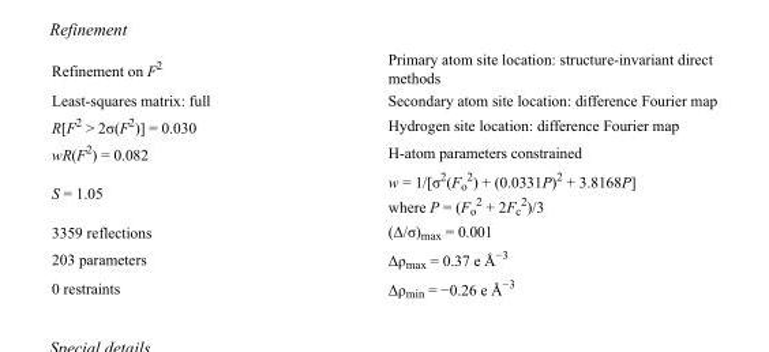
<table><tbody><tr><td>Refinement on F<sup>2</sup></td><td>Primary atom site location: structure-invariant direct methods</td></tr><tr><td>Least-squares matrix: full</td><td>Secondary atom site location: difference Fourier map</td></tr><tr><td>R[F<sup>2</sup> &gt; 2σ(F<sup>2</sup>)] = 0.030</td><td>Hydrogen site location: difference Fourier map</td></tr><tr><td>wR(F<sup>2</sup>) = 0.082</td><td>H-atom parameters constrained</td></tr><tr><td>S = 1.05</td><td>w = 1/[σ<sup>2</sup>(F<sub>o</sub> <sup>2</sup>) + (0.0331P)<sup>2</sup> + 3.8168P] where P = (F<sub>o</sub> <sup>2</sup> + 2F<sub>c</sub> <sup>2</sup>)/3</td></tr><tr><td>3359 reflections</td><td>(Δ/σ)<sub>max</sub> = 0.001</td></tr><tr><td>203 parameters</td><td>Δρ<sub>max</sub> = 0.37 e Å<sup>−3</sup></td></tr><tr><td>0 restraints</td><td>Δρ<sub>min</sub> = −0.26 e Å<sup>−3</sup></td></tr></tbody></table>